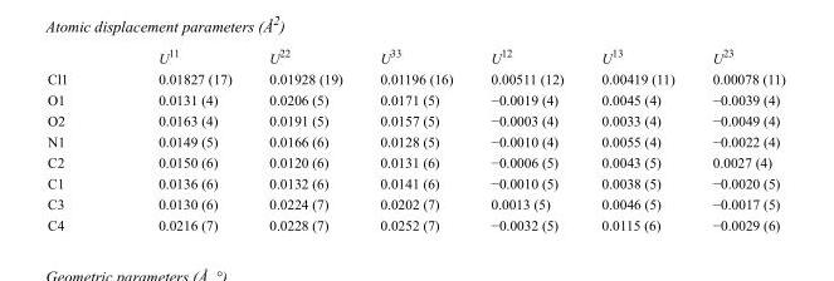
<table><thead><tr><td></td><td>U<sup>11</sup></td><td>U<sup>22</sup></td><td>U<sup>33</sup></td><td>U<sup>12</sup></td><td>U<sup>13</sup></td><td>U<sup>23</sup></td></tr></thead><tbody><tr><td>Cl1</td><td>0.01827 (17)</td><td>0.01928 (19)</td><td>0.01196 (16)</td><td>0.00511 (12)</td><td>0.00419 (11)</td><td>0.00078 (11)</td></tr><tr><td>O1</td><td>0.0131 (4)</td><td>0.0206 (5)</td><td>0.0171 (5)</td><td>−0.0019 (4)</td><td>0.0045 (4)</td><td>−0.0039 (4)</td></tr><tr><td>O2</td><td>0.0163 (4)</td><td>0.0191 (5)</td><td>0.0157 (5)</td><td>−0.0003 (4)</td><td>0.0033 (4)</td><td>−0.0049 (4)</td></tr><tr><td>N1</td><td>0.0149 (5)</td><td>0.0166 (6)</td><td>0.0128 (5)</td><td>−0.0010 (4)</td><td>0.0055 (4)</td><td>−0.0022 (4)</td></tr><tr><td>C2</td><td>0.0150 (6)</td><td>0.0120 (6)</td><td>0.0131 (6)</td><td>−0.0006 (5)</td><td>0.0043 (5)</td><td>0.0027 (4)</td></tr><tr><td>C1</td><td>0.0136 (6)</td><td>0.0132 (6)</td><td>0.0141 (6)</td><td>−0.0010 (5)</td><td>0.0038 (5)</td><td>−0.0020 (5)</td></tr><tr><td>C3</td><td>0.0130 (6)</td><td>0.0224 (7)</td><td>0.0202 (7)</td><td>0.0013 (5)</td><td>0.0046 (5)</td><td>−0.0017 (5)</td></tr><tr><td>C4</td><td>0.0216 (7)</td><td>0.0228 (7)</td><td>0.0252 (7)</td><td>−0.0032 (5)</td><td>0.0115 (6)</td><td>−0.0029 (6)</td></tr></tbody></table>